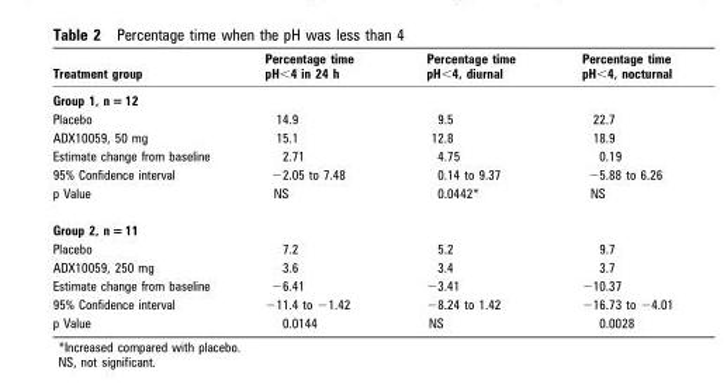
<table><thead><tr><td>Treatment group</td><td>Percentage time pH&lt;4 in 24 h</td><td>Percentage time pH&lt;4, diurnal</td><td>Percentage time pH&lt;4, nocturnal</td></tr></thead><tbody><tr><td colspan="4">Group 1, n = 12</td></tr><tr><td>Placebo</td><td>14.9</td><td>9.5</td><td>22.7</td></tr><tr><td>ADX10059, 50 mg</td><td>15.1</td><td>12.8</td><td>18.9</td></tr><tr><td>Estimate change from baseline</td><td>2.71</td><td>4.75</td><td>0.19</td></tr><tr><td>95% Confidence interval</td><td>−2.05 to 7.48</td><td>0.14 to 9.37</td><td>−5.88 to 6.26</td></tr><tr><td>p Value</td><td>NS</td><td>0.0442*</td><td>NS</td></tr><tr><td colspan="4">Group 2, n = 11</td></tr><tr><td>Placebo</td><td>7.2</td><td>5.2</td><td>9.7</td></tr><tr><td>ADX10059, 250 mg</td><td>3.6</td><td>3.4</td><td>3.7</td></tr><tr><td>Estimate change from baseline</td><td>−6.41</td><td>−3.41</td><td>−10.37</td></tr><tr><td>95% Confidence interval</td><td>−11.4 to −1.42</td><td>−8.24 to 1.42</td><td>−16.73 to −4.01</td></tr><tr><td>p Value</td><td>0.0144</td><td>NS</td><td>0.0028</td></tr></tbody></table>